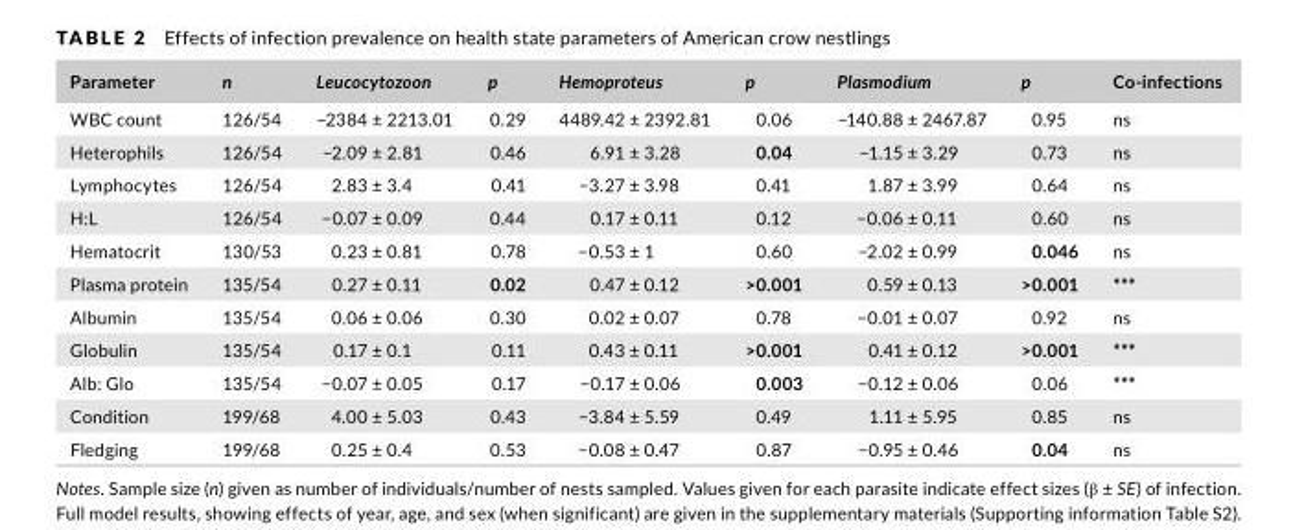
<table><thead><tr><td>Parameter</td><td>n</td><td>Leucocytozoon</td><td>p</td><td>Hemoproteus</td><td>p</td><td>Plasmodium</td><td>p</td><td>Co- infections</td></tr></thead><tbody><tr><td>WBC count</td><td>126/54</td><td>−2384 ± 2213.01</td><td>0.29</td><td>4489.42 ± 2392.81</td><td>0.06</td><td>−140.88 ± 2467.87</td><td>0.95</td><td>ns</td></tr><tr><td>Heterophils</td><td>126/54</td><td>−2.09 ± 2.81</td><td>0.46</td><td>6.91 ± 3.28</td><td>0.04</td><td>−1.15 ± 3.29</td><td>0.73</td><td>ns</td></tr><tr><td>Lymphocytes</td><td>126/54</td><td>2.83 ± 3.4</td><td>0.41</td><td>−3.27 ± 3.98</td><td>0.41</td><td>1.87 ± 3.99</td><td>0.64</td><td>ns</td></tr><tr><td>H:L</td><td>126/54</td><td>−0.07 ± 0.09</td><td>0.44</td><td>0.17 ± 0.11</td><td>0.12</td><td>−0.06 ± 0.11</td><td>0.60</td><td>ns</td></tr><tr><td>Hematocrit</td><td>130/53</td><td>0.23 ± 0.81</td><td>0.78</td><td>−0.53 ± 1</td><td>0.60</td><td>−2.02 ± 0.99</td><td>0.046</td><td>ns</td></tr><tr><td>Plasma protein</td><td>135/54</td><td>0.27 ± 0.11</td><td>0.02</td><td>0.47 ± 0.12</td><td>&gt;0.001</td><td>0.59 ± 0.13</td><td>&gt;0.001</td><td>***</td></tr><tr><td>Albumin</td><td>135/54</td><td>0.06 ± 0.06</td><td>0.30</td><td>0.02 ± 0.07</td><td>0.78</td><td>−0.01 ± 0.07</td><td>0.92</td><td>ns</td></tr><tr><td>Globulin</td><td>135/54</td><td>0.17 ± 0.1</td><td>0.11</td><td>0.43 ± 0.11</td><td>&gt;0.001</td><td>0.41 ± 0.12</td><td>&gt;0.001</td><td>***</td></tr><tr><td>Alb: Glo</td><td>135/54</td><td>−0.07 ± 0.05</td><td>0.17</td><td>−0.17 ± 0.06</td><td>0.003</td><td>−0.12 ± 0.06</td><td>0.06</td><td>***</td></tr><tr><td>Condition</td><td>199/68</td><td>4.00 ± 5.03</td><td>0.43</td><td>−3.84 ± 5.59</td><td>0.49</td><td>1.11 ± 5.95</td><td>0.85</td><td>ns</td></tr><tr><td>Fledging</td><td>199/68</td><td>0.25 ± 0.4</td><td>0.53</td><td>−0.08 ± 0.47</td><td>0.87</td><td>−0.95 ± 0.46</td><td>0.04</td><td>ns</td></tr></tbody></table>